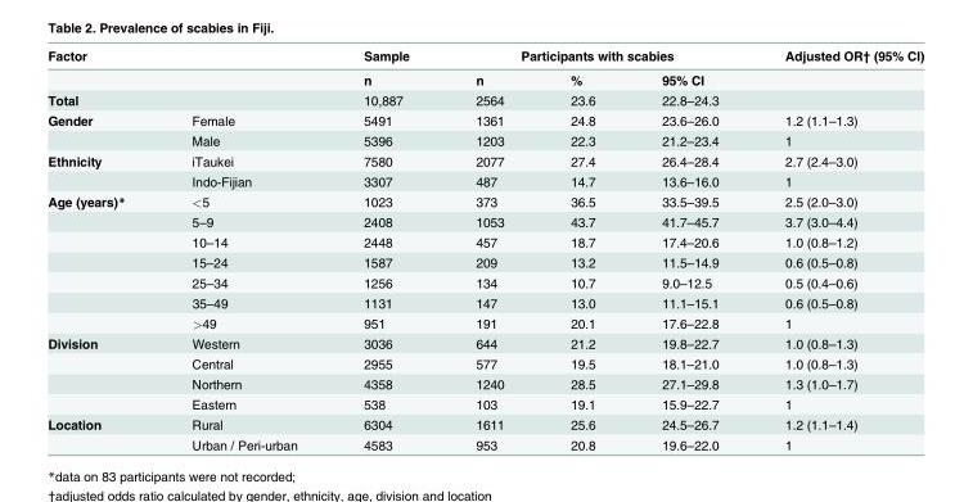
<table><thead><tr><td rowspan="2">Factor</td><td rowspan="2"></td><td rowspan="2">Sample n</td><td colspan="3">Participants with scabies</td><td rowspan="2">Adjusted OR† (95% CI)</td></tr><tr><td>n</td><td>%</td><td>95% CI</td></tr></thead><tbody><tr><td>Total</td><td></td><td>10,887</td><td>2564</td><td>23.6</td><td>22.8–24.3</td><td></td></tr><tr><td rowspan="2">Gender</td><td>Female</td><td>5491</td><td>1361</td><td>24.8</td><td>23.6–26.0</td><td>1.2 (1.1–1.3)</td></tr><tr><td>Male</td><td>5396</td><td>1203</td><td>22.3</td><td>21.2–23.4</td><td>1</td></tr><tr><td rowspan="2">Ethnicity</td><td>iTaukei</td><td>7580</td><td>2077</td><td>27.4</td><td>26.4–28.4</td><td>2.7 (2.4–3.0)</td></tr><tr><td>Indo-Fijian</td><td>3307</td><td>487</td><td>14.7</td><td>13.6–16.0</td><td>1</td></tr><tr><td rowspan="7">Age (years)*</td><td>&lt;5</td><td>1023</td><td>373</td><td>36.5</td><td>33.5–39.5</td><td>2.5 (2.0–3.0)</td></tr><tr><td>5–9</td><td>2408</td><td>1053</td><td>43.7</td><td>41.7–45.7</td><td>3.7 (3.0–4.4)</td></tr><tr><td>10–14</td><td>2448</td><td>457</td><td>18.7</td><td>17.4–20.6</td><td>1.0 (0.8–1.2)</td></tr><tr><td>15–24</td><td>1587</td><td>209</td><td>13.2</td><td>11.5–14.9</td><td>0.6 (0.5–0.8)</td></tr><tr><td>25–34</td><td>1256</td><td>134</td><td>10.7</td><td>9.0–12.5</td><td>0.5 (0.4–0.6)</td></tr><tr><td>35–49</td><td>1131</td><td>147</td><td>13.0</td><td>11.1–15.1</td><td>0.6 (0.5–0.8)</td></tr><tr><td>&gt;49</td><td>951</td><td>191</td><td>20.1</td><td>17.6–22.8</td><td>1</td></tr><tr><td rowspan="4">Division</td><td>Western</td><td>3036</td><td>644</td><td>21.2</td><td>19.8–22.7</td><td>1.0 (0.8–1.3)</td></tr><tr><td>Central</td><td>2955</td><td>577</td><td>19.5</td><td>18.1–21.0</td><td>1.0 (0.8–1.3)</td></tr><tr><td>Northern</td><td>4358</td><td>1240</td><td>28.5</td><td>27.1–29.8</td><td>1.3 (1.0–1.7)</td></tr><tr><td>Eastern</td><td>538</td><td>103</td><td>19.1</td><td>15.9–22.7</td><td>1</td></tr><tr><td rowspan="2">Location</td><td>Rural</td><td>6304</td><td>1611</td><td>25.6</td><td>24.5–26.7</td><td>1.2 (1.1–1.4)</td></tr><tr><td>Urban / Peri-urban</td><td>4583</td><td>953</td><td>20.8</td><td>19.6–22.0</td><td>1</td></tr></tbody></table>